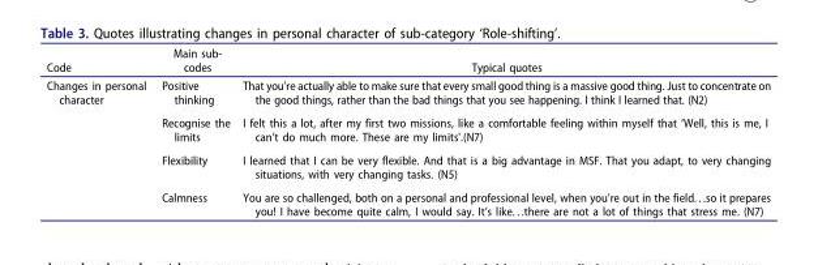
<table><thead><tr><td>Code</td><td>Main sub- codes</td><td>Typical quotes</td></tr></thead><tbody><tr><td rowspan="4">Changes in personal character</td><td>Positive thinking</td><td>That you’re actually able to make sure that every small good thing is a massive good thing. Just to concentrate on the good things, rather than the bad things that you see happening. I think I learned that. (N2)</td></tr><tr><td>Recognise the limits</td><td>I felt this a lot, after my first two missions, like a comfortable feeling within myself that ‘Well, this is me, I can’t do much more. These are my limits&#x27;.(N7)</td></tr><tr><td>Flexibility</td><td>I learned that I can be very flexible. And that is a big advantage in MSF. That you adapt, to very changing situations, with very changing tasks. (N5)</td></tr><tr><td>Calmness</td><td>You are so challenged, both on a personal and professional level, when you’re out in the field. . .so it prepares you! I have become quite calm, I would say. It’s like. . .there are not a lot of things that stress me. (N7)</td></tr></tbody></table>